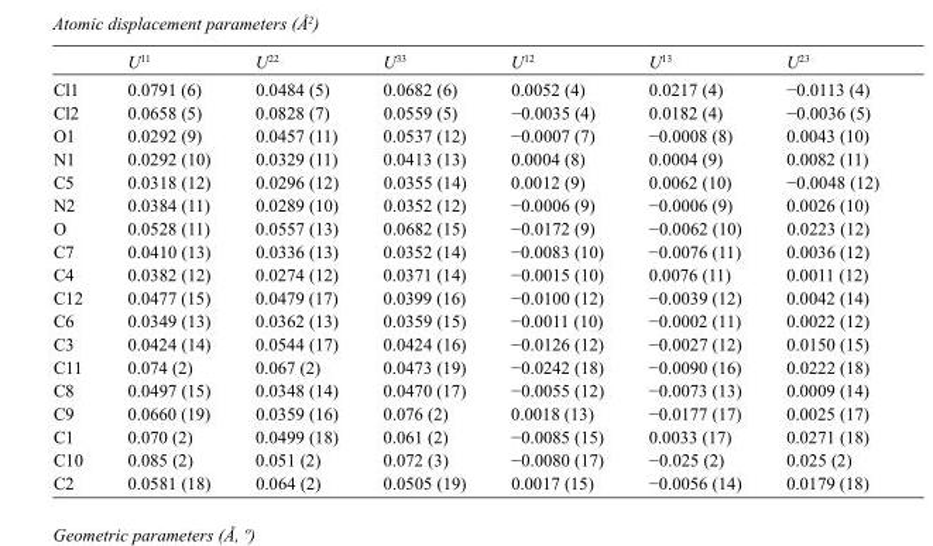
<table><thead><tr><td></td><td>U<sup>11</sup></td><td>U<sup>22</sup></td><td>U<sup>33</sup></td><td>U<sup>12</sup></td><td>U<sup>13</sup></td><td>U<sup>23</sup></td></tr></thead><tbody><tr><td>Cl1</td><td>0.0791 (6)</td><td>0.0484 (5)</td><td>0.0682 (6)</td><td>0.0052 (4)</td><td>0.0217 (4)</td><td>−0.0113 (4)</td></tr><tr><td>Cl2</td><td>0.0658 (5)</td><td>0.0828 (7)</td><td>0.0559 (5)</td><td>−0.0035 (4)</td><td>0.0182 (4)</td><td>−0.0036 (5)</td></tr><tr><td>O1</td><td>0.0292 (9)</td><td>0.0457 (11)</td><td>0.0537 (12)</td><td>−0.0007 (7)</td><td>−0.0008 (8)</td><td>0.0043 (10)</td></tr><tr><td>N1</td><td>0.0292 (10)</td><td>0.0329 (11)</td><td>0.0413 (13)</td><td>0.0004 (8)</td><td>0.0004 (9)</td><td>0.0082 (11)</td></tr><tr><td>C5</td><td>0.0318 (12)</td><td>0.0296 (12)</td><td>0.0355 (14)</td><td>0.0012 (9)</td><td>0.0062 (10)</td><td>−0.0048 (12)</td></tr><tr><td>N2</td><td>0.0384 (11)</td><td>0.0289 (10)</td><td>0.0352 (12)</td><td>−0.0006 (9)</td><td>−0.0006 (9)</td><td>0.0026 (10)</td></tr><tr><td>O</td><td>0.0528 (11)</td><td>0.0557 (13)</td><td>0.0682 (15)</td><td>−0.0172 (9)</td><td>−0.0062 (10)</td><td>0.0223 (12)</td></tr><tr><td>C7</td><td>0.0410 (13)</td><td>0.0336 (13)</td><td>0.0352 (14)</td><td>−0.0083 (10)</td><td>−0.0076 (11)</td><td>0.0036 (12)</td></tr><tr><td>C4</td><td>0.0382 (12)</td><td>0.0274 (12)</td><td>0.0371 (14)</td><td>−0.0015 (10)</td><td>0.0076 (11)</td><td>0.0011 (12)</td></tr><tr><td>C12</td><td>0.0477 (15)</td><td>0.0479 (17)</td><td>0.0399 (16)</td><td>−0.0100 (12)</td><td>−0.0039 (12)</td><td>0.0042 (14)</td></tr><tr><td>C6</td><td>0.0349 (13)</td><td>0.0362 (13)</td><td>0.0359 (15)</td><td>−0.0011 (10)</td><td>−0.0002 (11)</td><td>0.0022 (12)</td></tr><tr><td>C3</td><td>0.0424 (14)</td><td>0.0544 (17)</td><td>0.0424 (16)</td><td>−0.0126 (12)</td><td>−0.0027 (12)</td><td>0.0150 (15)</td></tr><tr><td>C11</td><td>0.074 (2)</td><td>0.067 (2)</td><td>0.0473 (19)</td><td>−0.0242 (18)</td><td>−0.0090 (16)</td><td>0.0222 (18)</td></tr><tr><td>C8</td><td>0.0497 (15)</td><td>0.0348 (14)</td><td>0.0470 (17)</td><td>−0.0055 (12)</td><td>−0.0073 (13)</td><td>0.0009 (14)</td></tr><tr><td>C9</td><td>0.0660 (19)</td><td>0.0359 (16)</td><td>0.076 (2)</td><td>0.0018 (13)</td><td>−0.0177 (17)</td><td>0.0025 (17)</td></tr><tr><td>C1</td><td>0.070 (2)</td><td>0.0499 (18)</td><td>0.061 (2)</td><td>−0.0085 (15)</td><td>0.0033 (17)</td><td>0.0271 (18)</td></tr><tr><td>C10</td><td>0.085 (2)</td><td>0.051 (2)</td><td>0.072 (3)</td><td>−0.0080 (17)</td><td>−0.025 (2)</td><td>0.025 (2)</td></tr><tr><td>C2</td><td>0.0581 (18)</td><td>0.064 (2)</td><td>0.0505 (19)</td><td>0.0017 (15)</td><td>−0.0056 (14)</td><td>0.0179 (18)</td></tr></tbody></table>